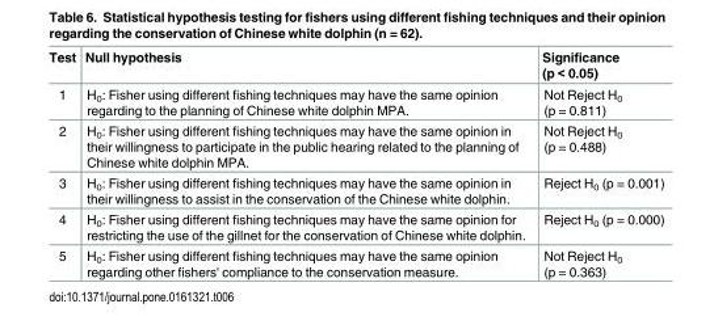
<table><thead><tr><td>Test</td><td>Null hypothesis</td><td>Significance (p &lt; 0.05)</td></tr></thead><tbody><tr><td>1</td><td>H<sub>0</sub>: Fisher using different fishing techniques may have the same opinion regarding to the planning of Chinese white dolphin MPA.</td><td>Not Reject H<sub>0</sub> (p = 0.811)</td></tr><tr><td>2</td><td>H<sub>0</sub>: Fisher using different fishing techniques may have the same opinion in their willingness to participate in the public hearing related to the planning of Chinese white dolphin MPA.</td><td>Not Reject H<sub>0</sub> (p = 0.488)</td></tr><tr><td>3</td><td>H<sub>0</sub>: Fisher using different fishing techniques may have the same opinion in their willingness to assist in the conservation of the Chinese white dolphin.</td><td>Reject H<sub>0</sub> (p = 0.001)</td></tr><tr><td>4</td><td>H<sub>0</sub>: Fisher using different fishing techniques may have the same opinion for restricting the use of the gillnet for the conservation of Chinese white dolphin.</td><td>Reject H<sub>0</sub> (p = 0.000)</td></tr><tr><td>5</td><td>H<sub>0</sub>: Fisher using different fishing techniques may have the same opinion regarding other fishers&#x27; compliance to the conservation measure.</td><td>Not Reject H<sub>0</sub> (p = 0.363)</td></tr></tbody></table>